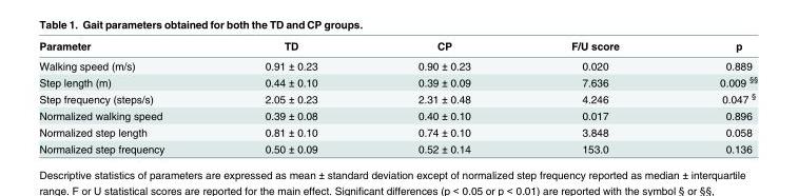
<table><thead><tr><td>Parameter</td><td>TD</td><td>CP</td><td>F/U score</td><td>p</td></tr></thead><tbody><tr><td>Walking speed (m/s)</td><td>0.91 ± 0.23</td><td>0.90 ± 0.23</td><td>0.020</td><td>0.889</td></tr><tr><td>Step length (m)</td><td>0.44 ± 0.10</td><td>0.39 ± 0.09</td><td>7.636</td><td>0.009 <sup>§§</sup></td></tr><tr><td>Step frequency (steps/s)</td><td>2.05 ± 0.23</td><td>2.31 ± 0.48</td><td>4.246</td><td>0.047 <sup>§</sup></td></tr><tr><td>Normalized walking speed</td><td>0.39 ± 0.08</td><td>0.40 ± 0.10</td><td>0.017</td><td>0.896</td></tr><tr><td>Normalized step length</td><td>0.81 ± 0.10</td><td>0.74 ± 0.10</td><td>3.848</td><td>0.058</td></tr><tr><td>Normalized step frequency</td><td>0.50 ± 0.09</td><td>0.52 ± 0.14</td><td>153.0</td><td>0.136</td></tr></tbody></table>